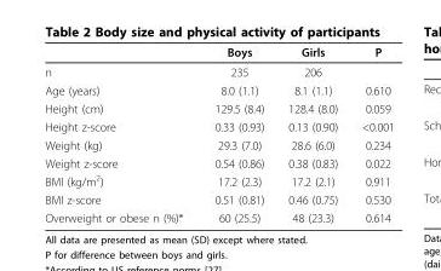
<table><thead><tr><td></td><td>Boys</td><td>Girls</td><td>P</td></tr></thead><tbody><tr><td>n</td><td>235</td><td>206</td><td></td></tr><tr><td>Age (years)</td><td>8.0 (1.1)</td><td>8.1 (1.1)</td><td>0.610</td></tr><tr><td>Height (cm)</td><td>129.5 (8.4)</td><td>128.4 (8.0)</td><td>0.059</td></tr><tr><td>Height z-score</td><td>0.33 (0.93)</td><td>0.13 (0.90)</td><td>&lt;0.001</td></tr><tr><td>Weight (kg)</td><td>29.3 (7.0)</td><td>28.6 (6.0)</td><td>0.234</td></tr><tr><td>Weight z-score</td><td>0.54 (0.86)</td><td>0.38 (0.83)</td><td>0.022</td></tr><tr><td>BMI (kg/m<sup>2</sup>)</td><td>17.2 (2.3)</td><td>17.2 (2.1)</td><td>0.911</td></tr><tr><td>BMI z-score</td><td>0.51 (0.81)</td><td>0.46 (0.75)</td><td>0.530</td></tr><tr><td>Overweight or obese n (%)*</td><td>60 (25.5)</td><td>48 (23.3)</td><td>0.614</td></tr></tbody></table>